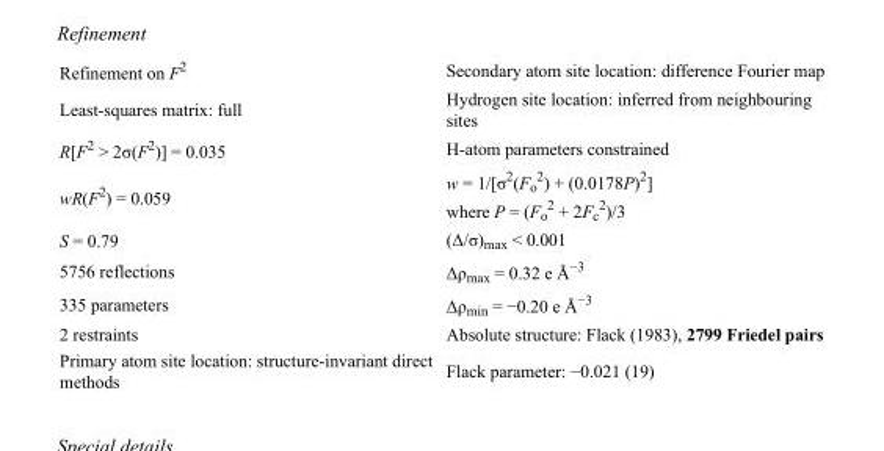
<table><tbody><tr><td>Refinement on F<sup>2</sup></td><td>Secondary atom site location: difference Fourier map</td></tr><tr><td>Least-squares matrix: full</td><td>Hydrogen site location: inferred from neighbouring sites</td></tr><tr><td>R[F<sup>2</sup> &gt; 2σ(F<sup>2</sup>)] = 0.035</td><td>H-atom parameters constrained</td></tr><tr><td>wR(F<sup>2</sup>) = 0.059</td><td>w = 1/[σ<sup>2</sup>(F<sub>o</sub> <sup>2</sup>) + (0.0178P)<sup>2</sup>] where P = (F<sub>o</sub> <sup>2</sup> + 2F<sub>c</sub> <sup>2</sup>)/3</td></tr><tr><td>S = 0.79</td><td>(Δ/σ)<sub>max</sub> &lt; 0.001</td></tr><tr><td>5756 reflections</td><td>Δρ<sub>max</sub> = 0.32 e Å<sup>−3</sup></td></tr><tr><td>335 parameters</td><td>Δρ<sub>min</sub> = −0.20 e Å<sup>−3</sup></td></tr><tr><td>2 restraints</td><td>Absolute structure: Flack (1983), 2799 Friedel pairs</td></tr><tr><td>Primary atom site location: structure-invariant direct methods</td><td>Flack parameter: −0.021 (19)</td></tr></tbody></table>